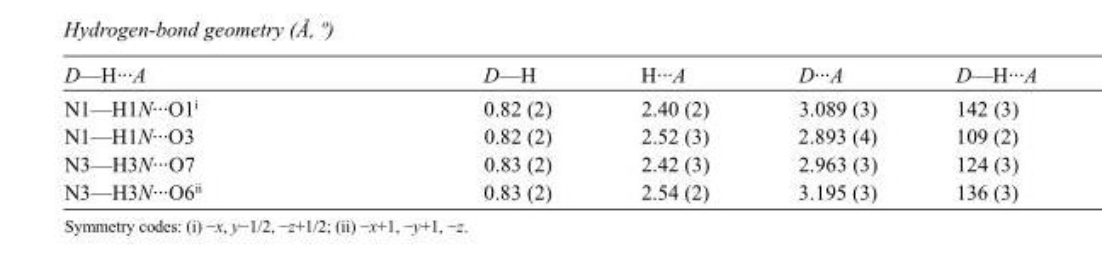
<table><tbody><tr><td>D—H···A</td><td>D—H</td><td>H···A</td><td>D···A</td><td>D—H···A</td></tr><tr><td>N1—H1N···O1<sup>i</sup></td><td>0.82 (2)</td><td>2.40 (2)</td><td>3.089 (3)</td><td>142 (3)</td></tr><tr><td>N1—H1N···O3</td><td>0.82 (2)</td><td>2.52 (3)</td><td>2.893 (4)</td><td>109 (2)</td></tr><tr><td>N3—H3N···O7</td><td>0.83 (2)</td><td>2.42 (3)</td><td>2.963 (3)</td><td>124 (3)</td></tr><tr><td>N3—H3N···O6<sup>ii</sup></td><td>0.83 (2)</td><td>2.54 (2)</td><td>3.195 (3)</td><td>136 (3)</td></tr></tbody></table>